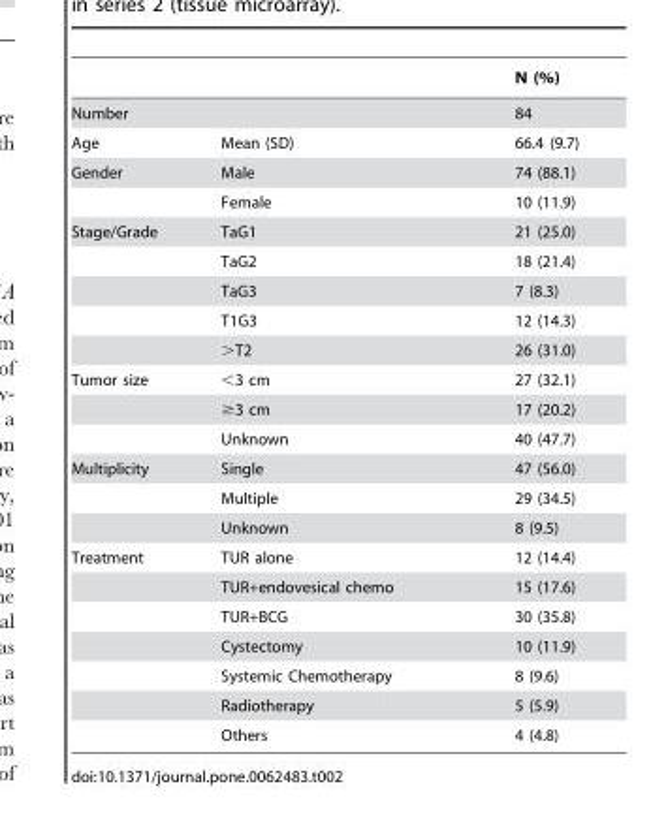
<table><thead><tr><td></td><td></td><td>N (%)</td></tr></thead><tbody><tr><td colspan="2">Number</td><td>84</td></tr><tr><td>Age</td><td>Mean (SD)</td><td>66.4 (9.7)</td></tr><tr><td rowspan="2">Gender</td><td>Male</td><td>74 (88.1)</td></tr><tr><td>Female</td><td>10 (11.9)</td></tr><tr><td rowspan="5">Stage/Grade</td><td>TaG1</td><td>21 (25.0)</td></tr><tr><td>TaG2</td><td>18 (21.4)</td></tr><tr><td>TaG3</td><td>7 (8.3)</td></tr><tr><td>T1G3</td><td>12 (14.3)</td></tr><tr><td>&gt;T2</td><td>26 (31.0)</td></tr><tr><td rowspan="3">Tumor size</td><td>&lt;3 cm</td><td>27 (32.1)</td></tr><tr><td>≥3 cm</td><td>17 (20.2)</td></tr><tr><td>Unknown</td><td>40 (47.7)</td></tr><tr><td rowspan="3">Multiplicity</td><td>Single</td><td>47 (56.0)</td></tr><tr><td>Multiple</td><td>29 (34.5)</td></tr><tr><td>Unknown</td><td>8 (9.5)</td></tr><tr><td rowspan="7">Treatment</td><td>TUR alone</td><td>12 (14.4)</td></tr><tr><td>TUR+endovesical chemo</td><td>15 (17.6)</td></tr><tr><td>TUR+BCG</td><td>30 (35.8)</td></tr><tr><td>Cystectomy</td><td>10 (11.9)</td></tr><tr><td>Systemic Chemotherapy</td><td>8 (9.6)</td></tr><tr><td>Radiotherapy</td><td>5 (5.9)</td></tr><tr><td>Others</td><td>4 (4.8)</td></tr></tbody></table>